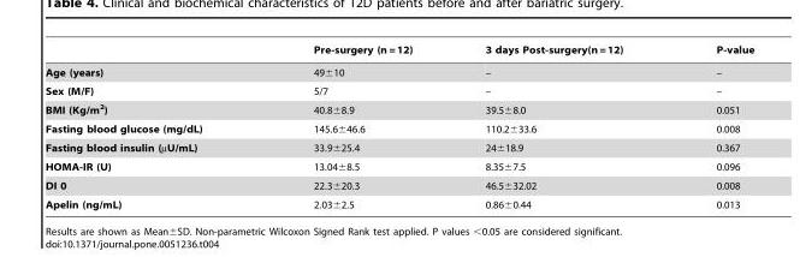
<table><thead><tr><td></td><td>Pre-surgery (n = 12)</td><td>3 days Post-surgery(n = 12)</td><td>P-value</td></tr></thead><tbody><tr><td>Age (years)</td><td>49±10</td><td>–</td><td>–</td></tr><tr><td>Sex (M/F)</td><td>5/7</td><td>–</td><td>–</td></tr><tr><td>BMI (Kg/m<sup>2</sup>)</td><td>40.8±8.9</td><td>39.5±8.0</td><td>0.051</td></tr><tr><td>Fasting blood glucose (mg/dL)</td><td>145.6±46.6</td><td>110.2±33.6</td><td>0.008</td></tr><tr><td>Fasting blood insulin (µU/mL)</td><td>33.9±25.4</td><td>24±18.9</td><td>0.367</td></tr><tr><td>HOMA-IR (U)</td><td>13.04±8.5</td><td>8.35±7.5</td><td>0.096</td></tr><tr><td>DI 0</td><td>22.3±20.3</td><td>46.5±32.02</td><td>0.008</td></tr><tr><td>Apelin (ng/mL)</td><td>2.03±2.5</td><td>0.86±0.44</td><td>0.013</td></tr></tbody></table>